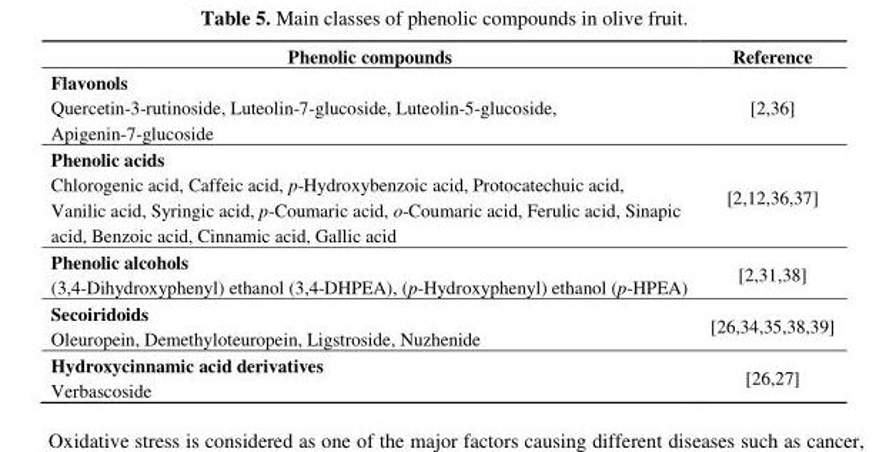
<table><thead><tr><td>Phenolic compounds</td><td>Reference</td></tr></thead><tbody><tr><td>Flavonols Quercetin-3-rutinoside, Luteolin-7-glucoside, Luteolin-5-glucoside, Apigenin-7-glucoside</td><td>[2,36]</td></tr><tr><td>Phenolic acids Chlorogenic acid, Caffeic acid, p-Hydroxybenzoic acid, Protocatechuic acid, Vanilic acid, Syringic acid, p-Coumaric acid, o-Coumaric acid, Ferulic acid, Sinapic acid, Benzoic acid, Cinnamic acid, Gallic acid</td><td>[2,12,36,37]</td></tr><tr><td>Phenolic alcohols (3,4-Dihydroxyphenyl) ethanol (3,4-DHPEA), (p-Hydroxyphenyl) ethanol (p-HPEA)</td><td>[2,31,38]</td></tr><tr><td>Secoiridoids Oleuropein, Demethyloteuropein, Ligstroside, Nuzhenide</td><td>[26,34,35,38,39]</td></tr><tr><td>Hydroxycinnamic acid derivatives Verbascoside</td><td>[26,27]</td></tr></tbody></table>